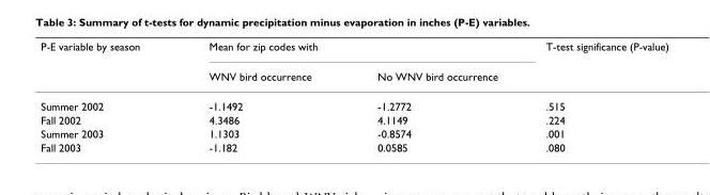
<table><thead><tr><td rowspan="2">P-E variable by season</td><td colspan="2">Mean for zip codes with</td><td rowspan="2">T-test significance (P-value)</td></tr><tr><td>WNV bird occurrence</td><td>No WNV bird occurrence</td></tr></thead><tbody><tr><td>Summer 2002</td><td>-1.1492</td><td>-1.2772</td><td>.515</td></tr><tr><td>Fall 2002</td><td>4.3486</td><td>4.1149</td><td>.224</td></tr><tr><td>Summer 2003</td><td>1.1303</td><td>-0.8574</td><td>.001</td></tr><tr><td>Fall 2003</td><td>-1.182</td><td>0.0585</td><td>.080</td></tr></tbody></table>